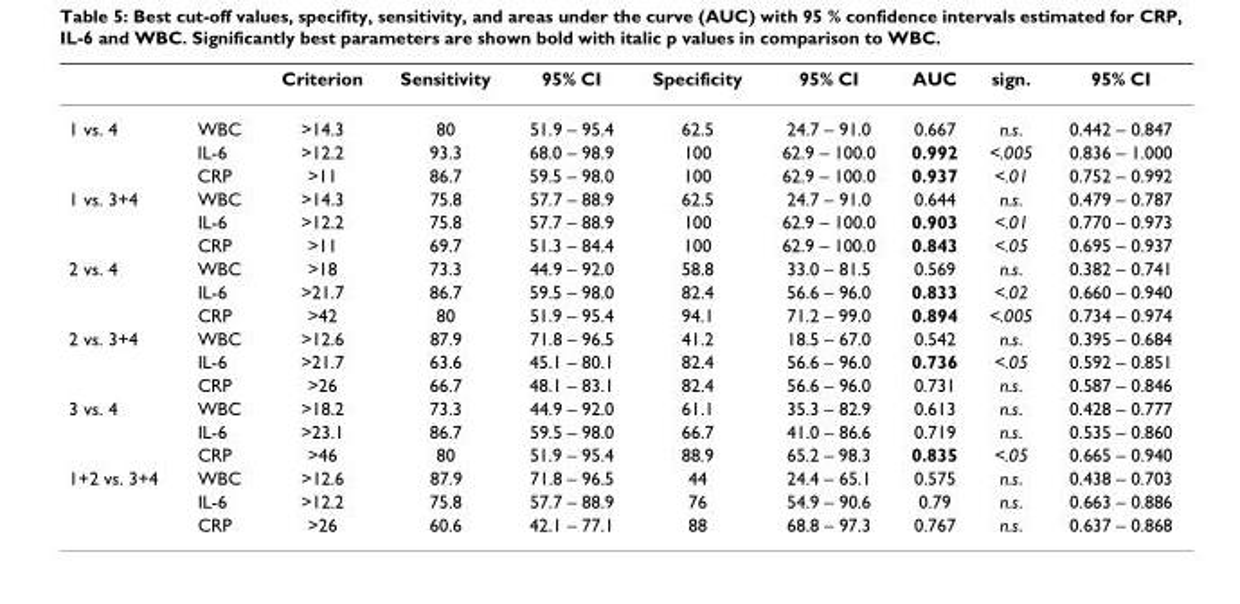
<table><thead><tr><td></td><td></td><td>Criterion</td><td>Sensitivity</td><td>95% CI</td><td>Specificity</td><td>95% CI</td><td>AUC</td><td>sign.</td><td>95% CI</td></tr></thead><tbody><tr><td rowspan="3">1 vs. 4</td><td>WBC</td><td>&gt;14.3</td><td>80</td><td>51.9 – 95.4</td><td>62.5</td><td>24.7 – 91.0</td><td>0.667</td><td>n.s.</td><td>0.442 – 0.847</td></tr><tr><td>IL-6</td><td>&gt;12.2</td><td>93.3</td><td>68.0 – 98.9</td><td>100</td><td>62.9 – 100.0</td><td>0.992</td><td>&lt;.005</td><td>0.836 – 1.000</td></tr><tr><td>CRP</td><td>&gt;11</td><td>86.7</td><td>59.5 – 98.0</td><td>100</td><td>62.9 – 100.0</td><td>0.937</td><td>&lt;.01</td><td>0.752 – 0.992</td></tr><tr><td rowspan="3">1 vs. 3+4</td><td>WBC</td><td>&gt;14.3</td><td>75.8</td><td>57.7 – 88.9</td><td>62.5</td><td>24.7 – 91.0</td><td>0.644</td><td>n.s.</td><td>0.479 – 0.787</td></tr><tr><td>IL-6</td><td>&gt;12.2</td><td>75.8</td><td>57.7 – 88.9</td><td>100</td><td>62.9 – 100.0</td><td>0.903</td><td>&lt;.01</td><td>0.770 – 0.973</td></tr><tr><td>CRP</td><td>&gt;11</td><td>69.7</td><td>51.3 – 84.4</td><td>100</td><td>62.9 – 100.0</td><td>0.843</td><td>&lt;.05</td><td>0.695 – 0.937</td></tr><tr><td rowspan="3">2 vs. 4</td><td>WBC</td><td>&gt;18</td><td>73.3</td><td>44.9 – 92.0</td><td>58.8</td><td>33.0 – 81.5</td><td>0.569</td><td>n.s.</td><td>0.382 – 0.741</td></tr><tr><td>IL-6</td><td>&gt;21.7</td><td>86.7</td><td>59.5 – 98.0</td><td>82.4</td><td>56.6 – 96.0</td><td>0.833</td><td>&lt;.02</td><td>0.660 – 0.940</td></tr><tr><td>CRP</td><td>&gt;42</td><td>80</td><td>51.9 – 95.4</td><td>94.1</td><td>71.2 – 99.0</td><td>0.894</td><td>&lt;.005</td><td>0.734 – 0.974</td></tr><tr><td rowspan="3">2 vs. 3+4</td><td>WBC</td><td>&gt;12.6</td><td>87.9</td><td>71.8 – 96.5</td><td>41.2</td><td>18.5 – 67.0</td><td>0.542</td><td>n.s.</td><td>0.395 – 0.684</td></tr><tr><td>IL-6</td><td>&gt;21.7</td><td>63.6</td><td>45.1 – 80.1</td><td>82.4</td><td>56.6 – 96.0</td><td>0.736</td><td>&lt;.05</td><td>0.592 – 0.851</td></tr><tr><td>CRP</td><td>&gt;26</td><td>66.7</td><td>48.1 – 83.1</td><td>82.4</td><td>56.6 – 96.0</td><td>0.731</td><td>n.s.</td><td>0.587 – 0.846</td></tr><tr><td rowspan="3">3 vs. 4</td><td>WBC</td><td>&gt;18.2</td><td>73.3</td><td>44.9 – 92.0</td><td>61.1</td><td>35.3 – 82.9</td><td>0.613</td><td>n.s.</td><td>0.428 – 0.777</td></tr><tr><td>IL-6</td><td>&gt;23.1</td><td>86.7</td><td>59.5 – 98.0</td><td>66.7</td><td>41.0 – 86.6</td><td>0.719</td><td>n.s.</td><td>0.535 – 0.860</td></tr><tr><td>CRP</td><td>&gt;46</td><td>80</td><td>51.9 – 95.4</td><td>88.9</td><td>65.2 – 98.3</td><td>0.835</td><td>&lt;.05</td><td>0.665 – 0.940</td></tr><tr><td rowspan="3">1+2 vs. 3+4</td><td>WBC</td><td>&gt;12.6</td><td>87.9</td><td>71.8 – 96.5</td><td>44</td><td>24.4 – 65.1</td><td>0.575</td><td>n.s.</td><td>0.438 – 0.703</td></tr><tr><td>IL-6</td><td>&gt;12.2</td><td>75.8</td><td>57.7 – 88.9</td><td>76</td><td>54.9 – 90.6</td><td>0.79</td><td>n.s.</td><td>0.663 – 0.886</td></tr><tr><td>CRP</td><td>&gt;26</td><td>60.6</td><td>42.1 – 77.1</td><td>88</td><td>68.8 – 97.3</td><td>0.767</td><td>n.s.</td><td>0.637 – 0.868</td></tr></tbody></table>